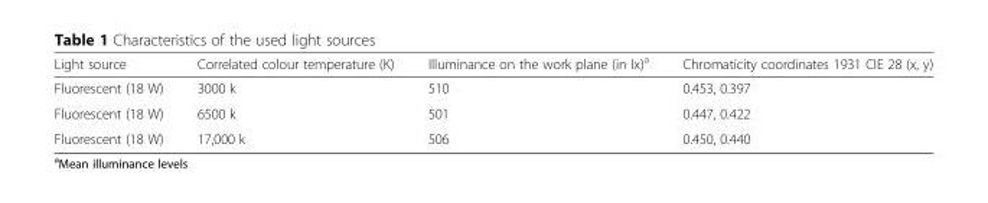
<table><thead><tr><td>Light source</td><td>Correlated colour temperature (K)</td><td>Illuminance on the work plane (in lx)<sup>a</sup></td><td>Chromaticity coordinates 1931 CIE 28 (x, y)</td></tr></thead><tbody><tr><td>Fluorescent (18 W)</td><td>3000 k</td><td>510</td><td>0.453, 0.397</td></tr><tr><td>Fluorescent (18 W)</td><td>6500 k</td><td>501</td><td>0.447, 0.422</td></tr><tr><td>Fluorescent (18 W)</td><td>17,000 k</td><td>506</td><td>0.450, 0.440</td></tr></tbody></table>